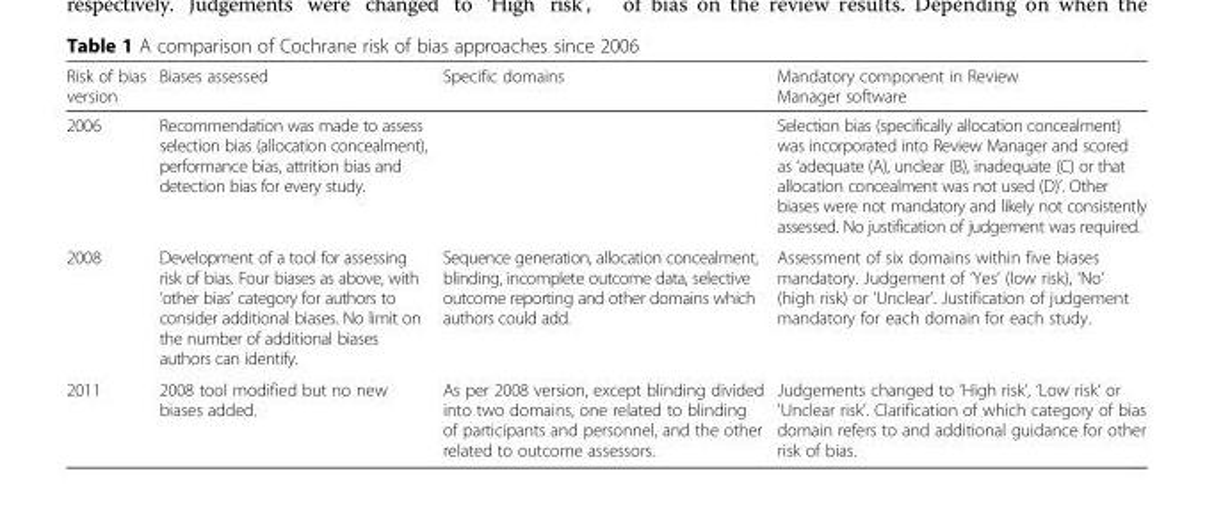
<table><thead><tr><td>Risk of bias version</td><td>Biases assessed</td><td>Specific domains</td><td>Mandatory component in Review Manager software</td></tr></thead><tbody><tr><td>2006</td><td>Recommendation was made to assess selection bias (allocation concealment), performance bias, attrition bias and detection bias for every study.</td><td></td><td>Selection bias (specifically allocation concealment) was incorporated into Review Manager and scored as ‘adequate (A), unclear (B), inadequate (C) or that allocation concealment was not used (D)’. Other biases were not mandatory and likely not consistently assessed. No justification of judgement was required.</td></tr><tr><td>2008</td><td>Development of a tool for assessing risk of bias. Four biases as above, with ‘other bias’ category for authors to consider additional biases. No limit on the number of additional biases authors can identify.</td><td>Sequence generation, allocation concealment, blinding, incomplete outcome data, selective outcome reporting and other domains which authors could add.</td><td>Assessment of six domains within five biases mandatory. Judgement of ‘Yes’ (low risk), ‘No’ (high risk) or ‘Unclear’. Justification of judgement mandatory for each domain for each study.</td></tr><tr><td>2011</td><td>2008 tool modified but no new biases added.</td><td>As per 2008 version, except blinding divided into two domains, one related to blinding of participants and personnel, and the other related to outcome assessors.</td><td>Judgements changed to ‘High risk’, ‘Low risk’ or &#x27;Unclear risk’. Clarification of which category of bias domain refers to and additional guidance for other risk of bias.</td></tr></tbody></table>